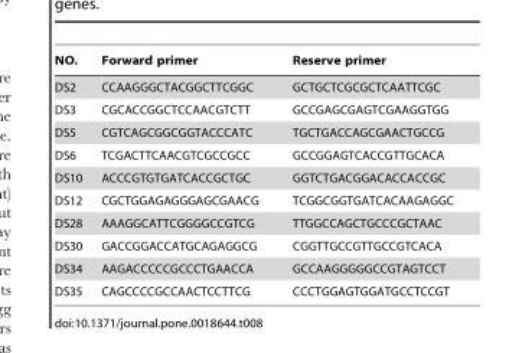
<table><thead><tr><td>NO.</td><td>Forward primer</td><td>Reserve primer</td></tr></thead><tbody><tr><td>DS2</td><td>CCAAGGGCTACGGCTTCGGC</td><td>GCTGCTCGCGCTCAATTCGC</td></tr><tr><td>DS3</td><td>CGCACCGGCTCCAACGTCTT</td><td>GCCGAGCGAGTCGAAGGTGG</td></tr><tr><td>DS5</td><td>CGTCAGCGGCGGTACCCATC</td><td>TGCTGACCAGCGAACTGCCG</td></tr><tr><td>DS6</td><td>TCGACTTCAACGTCGCCGCC</td><td>GCCGGAGTCACCGTTGCACA</td></tr><tr><td>DS10</td><td>ACCCGTGTGATCACCGCTGC</td><td>GGTCTGACGGACACCACCGC</td></tr><tr><td>DS12</td><td>CGCTGGAGAGGGAGCGAACG</td><td>TCGGCGGTGATCACAAGAGGC</td></tr><tr><td>DS28</td><td>AAAGGCATTCGGGGCCGTCG</td><td>TTGGCCAGCTGCCCGCTAAC</td></tr><tr><td>DS30</td><td>GACCGGACCATGCAGAGGCG</td><td>CGGTTGCCGTTGCCGTCACA</td></tr><tr><td>DS34</td><td>AAGACCCCCGCCCTGAACCA</td><td>GCCAAGGGGGCCGTAGTCCT</td></tr><tr><td>DS35</td><td>CAGCCCCGCCAACTCCTTCG</td><td>CCCTGGAGTGGATGCCTCCGT</td></tr></tbody></table>